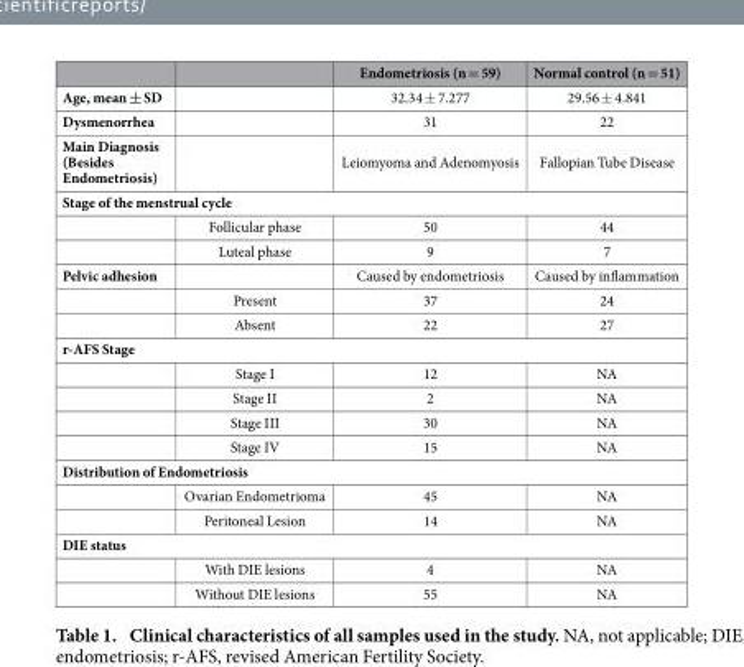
<table><thead><tr><td></td><td></td><td>Endometriosis (n = 59)</td><td>Normal control (n = 51)</td></tr></thead><tbody><tr><td>Age, mean ± SD</td><td></td><td>32.34 ± 7.277</td><td>29.56 ± 4.841</td></tr><tr><td>Dysmenorrhea</td><td></td><td>31</td><td>22</td></tr><tr><td>Main Diagnosis (Besides Endometriosis)</td><td></td><td>Leiomyoma and Adenomyosis</td><td>Fallopian Tube Disease</td></tr><tr><td colspan="4">Stage of the menstrual cycle</td></tr><tr><td></td><td>Follicular phase</td><td>50</td><td>44</td></tr><tr><td></td><td>Luteal phase</td><td>9</td><td>7</td></tr><tr><td rowspan="3">Pelvic adhesion</td><td></td><td>Caused by endometriosis</td><td>Caused by inflammation</td></tr><tr><td>Present</td><td>37</td><td>24</td></tr><tr><td>Absent</td><td>22</td><td>27</td></tr><tr><td colspan="4">r-AFS Stage</td></tr><tr><td></td><td>Stage I</td><td>12</td><td>NA</td></tr><tr><td></td><td>Stage II</td><td>2</td><td>NA</td></tr><tr><td></td><td>Stage III</td><td>30</td><td>NA</td></tr><tr><td></td><td>Stage IV</td><td>15</td><td>NA</td></tr><tr><td colspan="4">Distribution of Endometriosis</td></tr><tr><td></td><td>Ovarian Endometrioma</td><td>45</td><td>NA</td></tr><tr><td></td><td>Peritoneal Lesion</td><td>14</td><td>NA</td></tr><tr><td colspan="4">DIE status</td></tr><tr><td></td><td>With DIE lesions</td><td>4</td><td>NA</td></tr><tr><td></td><td>Without DIE lesions</td><td>55</td><td>NA</td></tr></tbody></table>